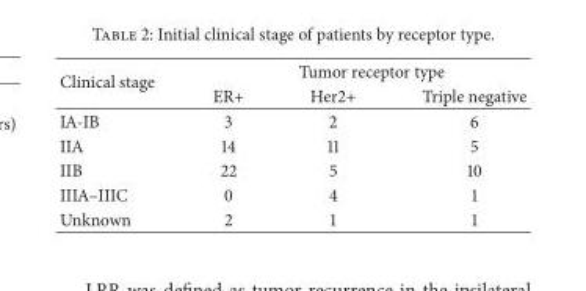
<table><thead><tr><td rowspan="2">Clinical stage</td><td colspan="3">Tumor receptor type</td></tr><tr><td>ER+</td><td>Her2+</td><td>Triple negative</td></tr></thead><tbody><tr><td>IA-IB</td><td>3</td><td>2</td><td>6</td></tr><tr><td>IIA</td><td>14</td><td>11</td><td>5</td></tr><tr><td>IIB</td><td>22</td><td>5</td><td>10</td></tr><tr><td>IIIA–IIIC</td><td>0</td><td>4</td><td>1</td></tr><tr><td>Unknown</td><td>2</td><td>1</td><td>1</td></tr></tbody></table>